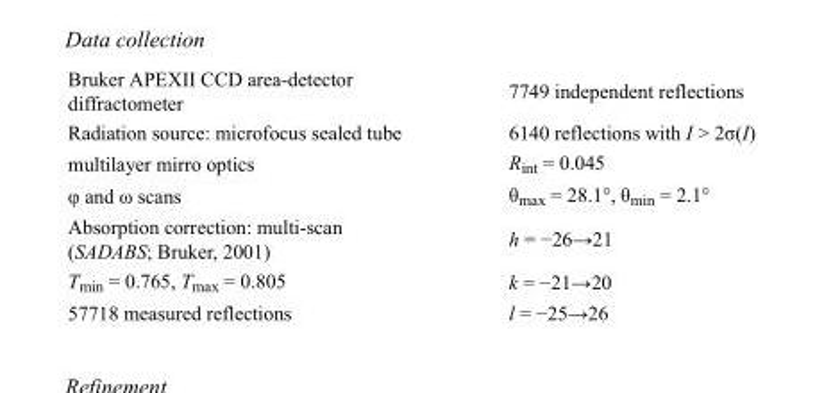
<table><tbody><tr><td>Bruker APEXII CCD area-detector diffractometer</td><td>7749 independent reflections</td></tr><tr><td>Radiation source: microfocus sealed tube</td><td>6140 reflections with I &gt; 2σ(I)</td></tr><tr><td>multilayer mirro optics</td><td>R<sub>int</sub> = 0.045</td></tr><tr><td>φ and ω scans</td><td>θ<sub>max</sub> = 28.1°, θ<sub>min</sub> = 2.1°</td></tr><tr><td>Absorption correction: multi-scan (SADABS; Bruker, 2001)</td><td>h = −26→21</td></tr><tr><td>T<sub>min</sub> = 0.765, T<sub>max</sub> = 0.805</td><td>k = −21→20</td></tr><tr><td>57718 measured reflections</td><td>l = −25→26</td></tr></tbody></table>